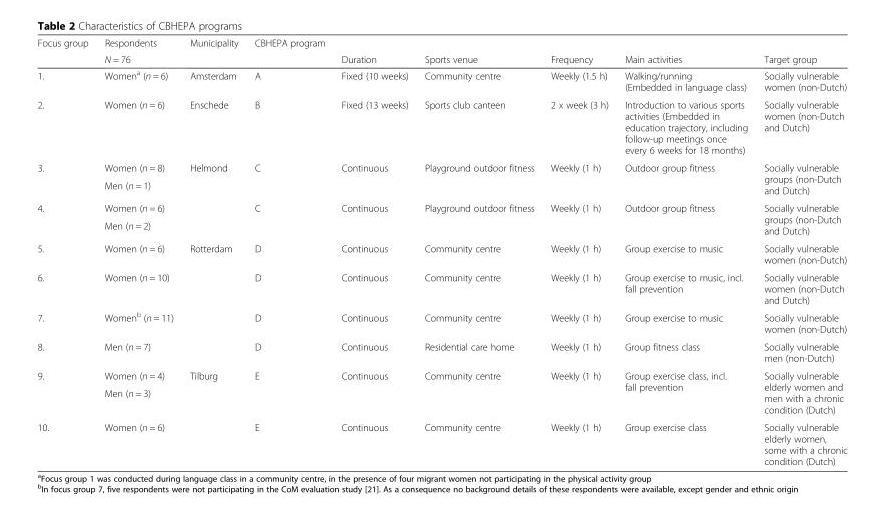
<table><thead><tr><td rowspan="2">Focus group</td><td rowspan="2">Respondents N = 76</td><td rowspan="2">Municipality</td><td rowspan="2">CBHEPA program</td><td rowspan="2">Duration</td><td rowspan="2">Sports venue</td><td rowspan="2">Frequency</td><td rowspan="2">Main activities</td><td rowspan="2">Target group</td></tr><tr></tr></thead><tbody><tr><td>1.</td><td>Women<sup>a</sup> (n = 6)</td><td>Amsterdam</td><td>A</td><td>Fixed (10 weeks)</td><td>Community centre</td><td>Weekly (1.5 h)</td><td>Walking/running (Embedded in language class)</td><td>Socially vulnerable women (non-Dutch)</td></tr><tr><td>2.</td><td>Women (n = 6)</td><td>Enschede</td><td>B</td><td>Fixed (13 weeks)</td><td>Sports club canteen</td><td>2 x week (3 h)</td><td>Introduction to various sports activities (Embedded in education trajectory, including follow-up meetings once every 6 weeks for 18 months)</td><td>Socially vulnerable women (non-Dutch and Dutch)</td></tr><tr><td rowspan="2">3.</td><td>Women (n = 8)</td><td rowspan="2">Helmond</td><td rowspan="2">C</td><td rowspan="2">Continuous</td><td rowspan="2">Playground outdoor fitness</td><td rowspan="2">Weekly (1 h)</td><td rowspan="2">Outdoor group fitness</td><td rowspan="2">Socially vulnerable groups (non-Dutch and Dutch)</td></tr><tr><td>Men (n = 1)</td></tr><tr><td rowspan="2">4.</td><td>Women (n = 6)</td><td rowspan="2"></td><td rowspan="2">C</td><td rowspan="2">Continuous</td><td rowspan="2">Playground outdoor fitness</td><td rowspan="2">Weekly (1 h)</td><td rowspan="2">Outdoor group fitness</td><td rowspan="2">Socially vulnerable groups (non-Dutch and Dutch)</td></tr><tr><td>Men (n = 2)</td></tr><tr><td>5.</td><td>Women (n = 6)</td><td>Rotterdam</td><td>D</td><td>Continuous</td><td>Community centre</td><td>Weekly (1 h)</td><td>Group exercise to music</td><td>Socially vulnerable women (non-Dutch)</td></tr><tr><td>6.</td><td>Women (n = 10)</td><td></td><td>D</td><td>Continuous</td><td>Community centre</td><td>Weekly (1 h)</td><td>Group exercise to music, incl. fall prevention</td><td>Socially vulnerable women (non-Dutch and Dutch)</td></tr><tr><td>7.</td><td>Women<sup>b</sup> (n = 11)</td><td></td><td>D</td><td>Continuous</td><td>Community centre</td><td>Weekly (1 h)</td><td>Group exercise to music</td><td>Socially vulnerable women (non-Dutch)</td></tr><tr><td>8.</td><td>Men (n = 7)</td><td></td><td>D</td><td>Continuous</td><td>Residential care home</td><td>Weekly (1 h)</td><td>Group fitness class</td><td>Socially vulnerable men (non-Dutch)</td></tr><tr><td rowspan="2">9.</td><td>Women (n = 4)</td><td rowspan="2">Tilburg</td><td rowspan="2">E</td><td rowspan="2">Continuous</td><td rowspan="2">Community centre</td><td rowspan="2">Weekly (1 h)</td><td rowspan="2">Group exercise class, incl. fall prevention</td><td rowspan="2">Socially vulnerable elderly women and men with a chronic condition (Dutch)</td></tr><tr><td>Men (n = 3)</td></tr><tr><td>10.</td><td>Women (n = 6)</td><td></td><td>E</td><td>Continuous</td><td>Community centre</td><td>Weekly (1 h)</td><td>Group exercise class</td><td>Socially vulnerable elderly women, some with a chronic condition (Dutch)</td></tr></tbody></table>